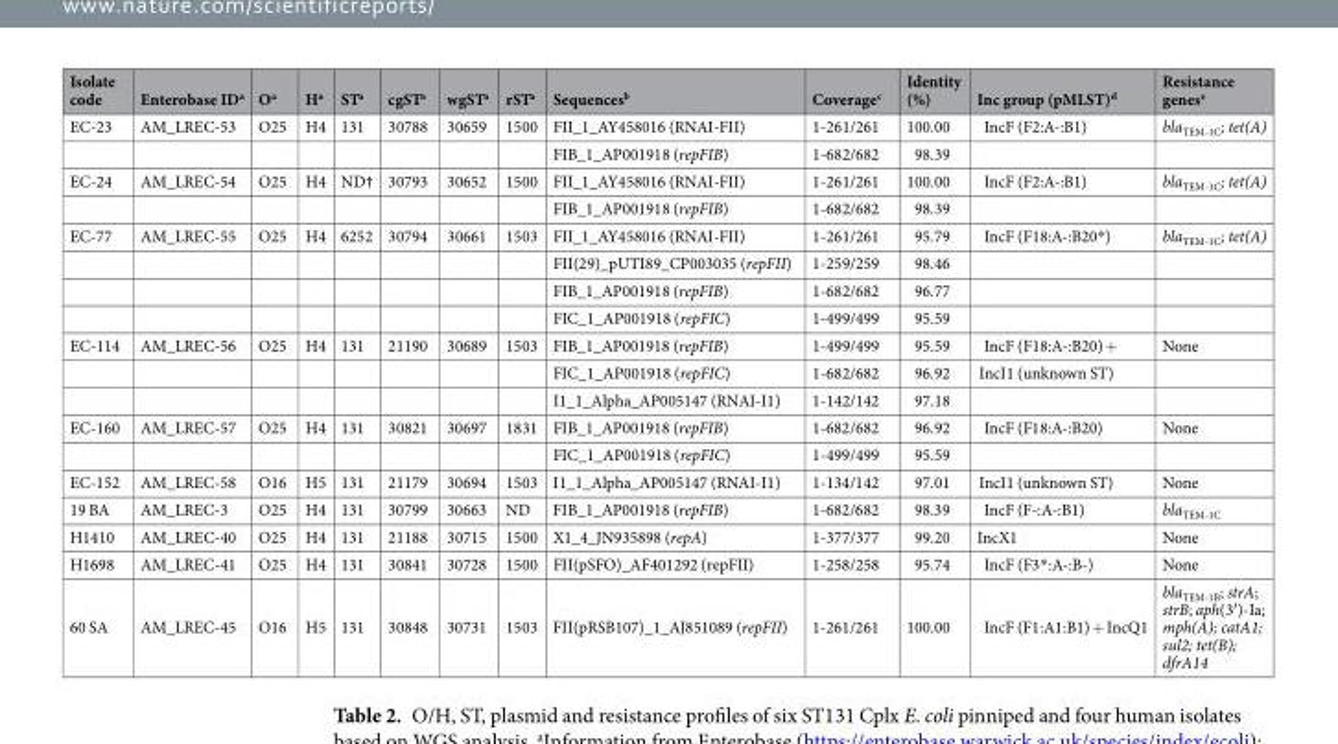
<table><thead><tr><td>Isolate code</td><td>Enterobase ID<sup>a</sup></td><td>O<sup>a</sup></td><td>H<sup>a</sup></td><td>ST<sup>a</sup></td><td>cgST<sup>a</sup></td><td>wgST<sup>a</sup></td><td>rST<sup>a</sup></td><td>Sequences<sup>b</sup></td><td>Coverage<sup>c</sup></td><td>Identity (%)</td><td>Inc group (pMLST)<sup>d</sup></td><td>Resistance genes<sup>e</sup></td></tr></thead><tbody><tr><td rowspan="2">EC-23</td><td>AM_LREC-53</td><td>O25</td><td>H4</td><td>131</td><td>30788</td><td>30659</td><td>1500</td><td>FII_1_AY458016 (RNAI-FII)</td><td>1-261/261</td><td>100.00</td><td>IncF (F2:A-:B1)</td><td>bla<sub>TEM-1C</sub>; tet(A)</td></tr><tr><td></td><td></td><td></td><td></td><td></td><td></td><td></td><td>FIB_1_AP001918 (repFIB)</td><td>1-682/682</td><td>98.39</td><td></td><td></td></tr><tr><td rowspan="2">EC-24</td><td>AM_LREC-54</td><td>O25</td><td>H4</td><td>ND†</td><td>30793</td><td>30652</td><td>1500</td><td>FII_1_AY458016 (RNAI-FII)</td><td>1-261/261</td><td>100.00</td><td>IncF (F2:A-:B1)</td><td>bla<sub>TEM-1C</sub>; tet(A)</td></tr><tr><td></td><td></td><td></td><td></td><td></td><td></td><td></td><td>FIB_1_AP001918 (repFIB)</td><td>1-682/682</td><td>98.39</td><td></td><td></td></tr><tr><td rowspan="4">EC-77</td><td>AM_LREC-55</td><td>O25</td><td>H4</td><td>6252</td><td>30794</td><td>30661</td><td>1503</td><td>FII_1_AY458016 (RNAI-FII)</td><td>1-261/261</td><td>95.79</td><td>IncF (F18:A-:B20*)</td><td>bla<sub>TEM-1C</sub>; tet(A)</td></tr><tr><td></td><td></td><td></td><td></td><td></td><td></td><td></td><td>FII(29)_pUTI89_CP003035 (repFII)</td><td>1-259/259</td><td>98.46</td><td></td><td></td></tr><tr><td></td><td></td><td></td><td></td><td></td><td></td><td></td><td>FIB_1_AP001918 (repFIB)</td><td>1-682/682</td><td>96.77</td><td></td><td></td></tr><tr><td></td><td></td><td></td><td></td><td></td><td></td><td></td><td>FIC_1_AP001918 (repFIC)</td><td>1-499/499</td><td>95.59</td><td></td><td></td></tr><tr><td rowspan="3">EC-114</td><td>AM_LREC-56</td><td>O25</td><td>H4</td><td>131</td><td>21190</td><td>30689</td><td>1503</td><td>FIB_1_AP001918 (repFIB)</td><td>1-499/499</td><td>95.59</td><td>IncF (F18:A-:B20) +</td><td>None</td></tr><tr><td></td><td></td><td></td><td></td><td></td><td></td><td></td><td>FIC_1_AP001918 (repFIC)</td><td>1-682/682</td><td>96.92</td><td>IncI1 (unknown ST)</td><td></td></tr><tr><td></td><td></td><td></td><td></td><td></td><td></td><td></td><td>I1_1_Alpha_AP005147 (RNAI-I1)</td><td>1-142/142</td><td>97.18</td><td></td><td></td></tr><tr><td rowspan="2">EC-160</td><td>AM_LREC-57</td><td>O25</td><td>H4</td><td>131</td><td>30821</td><td>30697</td><td>1831</td><td>FIB_1_AP001918 (repFIB)</td><td>1-682/682</td><td>96.92</td><td>IncF (F18:A-:B20)</td><td>None</td></tr><tr><td></td><td></td><td></td><td></td><td></td><td></td><td></td><td>FIC_1_AP001918 (repFIC)</td><td>1-499/499</td><td>95.59</td><td></td><td></td></tr><tr><td>EC-152</td><td>AM_LREC-58</td><td>O16</td><td>H5</td><td>131</td><td>21179</td><td>30694</td><td>1503</td><td>I1_1_Alpha_AP005147 (RNAI-I1)</td><td>1-134/142</td><td>97.01</td><td>IncI1 (unknown ST)</td><td>None</td></tr><tr><td>19 BA</td><td>AM_LREC-3</td><td>O25</td><td>H4</td><td>131</td><td>30799</td><td>30663</td><td>ND</td><td>FIB_1_AP001918 (repFIB)</td><td>1-682/682</td><td>98.39</td><td>IncF (F-:A-:B1)</td><td>bla<sub>TEM-1C</sub></td></tr><tr><td>H1410</td><td>AM_LREC-40</td><td>O25</td><td>H4</td><td>131</td><td>21188</td><td>30715</td><td>1500</td><td>X1_4_JN935898 (repA)</td><td>1-377/377</td><td>99.20</td><td>IncX1</td><td>None</td></tr><tr><td>H1698</td><td>AM_LREC-41</td><td>O25</td><td>H4</td><td>131</td><td>30841</td><td>30728</td><td>1500</td><td>FII(pSFO)_AF401292 (repFII)</td><td>1-258/258</td><td>95.74</td><td>IncF (F3*:A-:B-)</td><td>None</td></tr><tr><td>60 SA</td><td>AM_LREC-45</td><td>O16</td><td>H5</td><td>131</td><td>30848</td><td>30731</td><td>1503</td><td>FII(pRSB107)_1_AJ851089 (repFII)</td><td>1-261/261</td><td>100.00</td><td>IncF (F1:A1:B1) + IncQ1</td><td>bla<sub>TEM-1B</sub>; strA; strB; aph(3′)-Ia; mph(A); catA1; sul2; tet(B); dfrA14</td></tr></tbody></table>